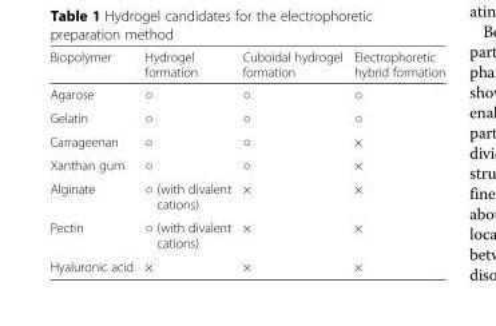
<table><thead><tr><td>Biopolymer</td><td>Hydrogel formation</td><td>Cuboidal hydrogel formation</td><td>Electrophoretic hybrid formation</td></tr></thead><tbody><tr><td>Agarose</td><td>○</td><td>○</td><td>○</td></tr><tr><td>Gelatin</td><td>○</td><td>○</td><td>○</td></tr><tr><td>Carrageenan</td><td>○</td><td>○</td><td>×</td></tr><tr><td>Xanthan gum</td><td>○</td><td>○</td><td>×</td></tr><tr><td>Alginate</td><td>○ (with divalent cations)</td><td>×</td><td>×</td></tr><tr><td>Pectin</td><td>○ (with divalent cations)</td><td>×</td><td>×</td></tr><tr><td>Hyaluronic acid</td><td>×</td><td>×</td><td>×</td></tr></tbody></table>